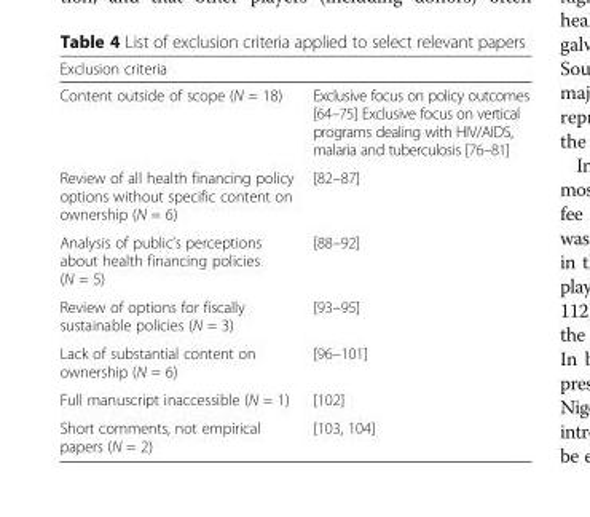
<table><thead><tr><td colspan="2">Exclusion criteria</td></tr><tr><td>Content outside of scope (N = 18)</td><td>Exclusive focus on policy outcomes [64–75] Exclusive focus on vertical programs dealing with HIV/AIDS, malaria and tuberculosis [76–81]</td></tr></thead><tbody><tr><td>Review of all health financing policy options without specific content on ownership (N = 6)</td><td>[82–87]</td></tr><tr><td>Analysis of public’s perceptions about health financing policies (N = 5)</td><td>[88–92]</td></tr><tr><td>Review of options for fiscally sustainable policies (N = 3)</td><td>[93–95]</td></tr><tr><td>Lack of substantial content on ownership (N = 6)</td><td>[96–101]</td></tr><tr><td>Full manuscript inaccessible (N = 1)</td><td>[102]</td></tr><tr><td>Short comments, not empirical papers (N = 2)</td><td>[103, 104]</td></tr></tbody></table>